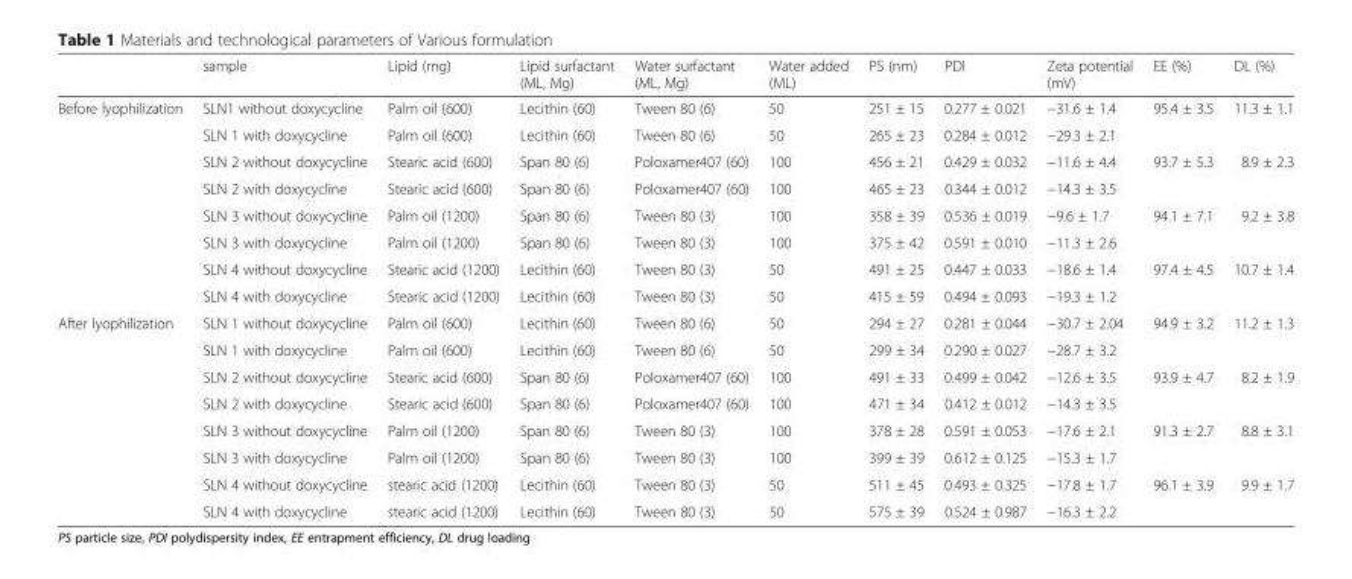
<table><thead><tr><td></td><td>sample</td><td>Lipid (mg)</td><td>Lipid surfactant (ML, Mg)</td><td>Water surfactant (ML, Mg)</td><td>Water added (ML)</td><td>PS (nm)</td><td>PDI</td><td>Zeta potential (mV)</td><td>EE (%)</td><td>DL (%)</td></tr></thead><tbody><tr><td rowspan="8">Before lyophilization</td><td>SLN1 without doxycycline</td><td>Palm oil (600)</td><td>Lecithin (60)</td><td>Tween 80 (6)</td><td>50</td><td>251 ± 15</td><td>0.277 ± 0.021</td><td>−31.6 ± 1.4</td><td rowspan="2">95.4 ± 3.5</td><td rowspan="2">11.3 ± 1.1</td></tr><tr><td>SLN 1 with doxycycline</td><td>Palm oil (600)</td><td>Lecithin (60)</td><td>Tween 80 (6)</td><td>50</td><td>265 ± 23</td><td>0.284 ± 0.012</td><td>−29.3 ± 2.1</td></tr><tr><td>SLN 2 without doxycycline</td><td>Stearic acid (600)</td><td>Span 80 (6)</td><td>Poloxamer407 (60)</td><td>100</td><td>456 ± 21</td><td>0.429 ± 0.032</td><td>−11.6 ± 4.4</td><td rowspan="2">93.7 ± 5.3</td><td rowspan="2">8.9 ± 2.3</td></tr><tr><td>SLN 2 with doxycycline</td><td>Stearic acid (600)</td><td>Span 80 (6)</td><td>Poloxamer407 (60)</td><td>100</td><td>465 ± 23</td><td>0.344 ± 0.012</td><td>−14.3 ± 3.5</td></tr><tr><td>SLN 3 without doxycycline</td><td>Palm oil (1200)</td><td>Span 80 (6)</td><td>Tween 80 (3)</td><td>100</td><td>358 ± 39</td><td>0.536 ± 0.019</td><td>−9.6 ± 1.7</td><td rowspan="2">94.1 ± 7.1</td><td rowspan="2">9.2 ± 3.8</td></tr><tr><td>SLN 3 with doxycycline</td><td>Palm oil (1200)</td><td>Span 80 (6)</td><td>Tween 80 (3)</td><td>100</td><td>375 ± 42</td><td>0.591 ± 0.010</td><td>−11.3 ± 2.6</td></tr><tr><td>SLN 4 without doxycycline</td><td>Stearic acid (1200)</td><td>Lecithin (60)</td><td>Tween 80 (3)</td><td>50</td><td>491 ± 25</td><td>0.447 ± 0.033</td><td>−18.6 ± 1.4</td><td rowspan="2">97.4 ± 4.5</td><td rowspan="2">10.7 ± 1.4</td></tr><tr><td>SLN 4 with doxycycline</td><td>Stearic acid (1200)</td><td>Lecithin (60)</td><td>Tween 80 (3)</td><td>50</td><td>415 ± 59</td><td>0.494 ± 0.093</td><td>−19.3 ± 1.2</td></tr><tr><td rowspan="8">After lyophilization</td><td>SLN 1 without doxycycline</td><td>Palm oil (600)</td><td>Lecithin (60)</td><td>Tween 80 (6)</td><td>50</td><td>294 ± 27</td><td>0.281 ± 0.044</td><td>−30.7 ± 2.04</td><td rowspan="2">94.9 ± 3.2</td><td rowspan="2">11.2 ± 1.3</td></tr><tr><td>SLN 1 with doxycycline</td><td>Palm oil (600)</td><td>Lecithin (60)</td><td>Tween 80 (6)</td><td>50</td><td>299 ± 34</td><td>0.290 ± 0.027</td><td>−28.7 ± 3.2</td></tr><tr><td>SLN 2 without doxycycline</td><td>Stearic acid (600)</td><td>Span 80 (6)</td><td>Poloxamer407 (60)</td><td>100</td><td>491 ± 33</td><td>0.499 ± 0.042</td><td>−12.6 ± 3.5</td><td rowspan="2">93.9 ± 4.7</td><td rowspan="2">8.2 ± 1.9</td></tr><tr><td>SLN 2 with doxycycline</td><td>Stearic acid (600)</td><td>Span 80 (6)</td><td>Poloxamer407 (60)</td><td>100</td><td>471 ± 34</td><td>0.412 ± 0.012</td><td>−14.3 ± 3.5</td></tr><tr><td>SLN 3 without doxycycline</td><td>Palm oil (1200)</td><td>Span 80 (6)</td><td>Tween 80 (3)</td><td>100</td><td>378 ± 28</td><td>0.591 ± 0.053</td><td>−17.6 ± 2.1</td><td rowspan="2">91.3 ± 2.7</td><td rowspan="2">8.8 ± 3.1</td></tr><tr><td>SLN 3 with doxycycline</td><td>Palm oil (1200)</td><td>Span 80 (6)</td><td>Tween 80 (3)</td><td>100</td><td>399 ± 39</td><td>0.612 ± 0.125</td><td>−15.3 ± 1.7</td></tr><tr><td>SLN 4 without doxycycline</td><td>stearic acid (1200)</td><td>Lecithin (60)</td><td>Tween 80 (3)</td><td>50</td><td>511 ± 45</td><td>0.493 ± 0.325</td><td>−17.8 ± 1.7</td><td rowspan="2">96.1 ± 3.9</td><td rowspan="2">9.9 ± 1.7</td></tr><tr><td>SLN 4 with doxycycline</td><td>stearic acid (1200)</td><td>Lecithin (60)</td><td>Tween 80 (3)</td><td>50</td><td>575 ± 39</td><td>0.524 ± 0.987</td><td>−16.3 ± 2.2</td></tr></tbody></table>